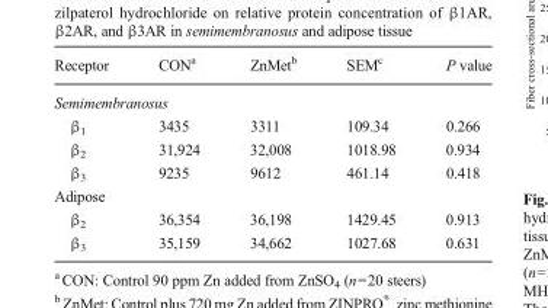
<table><thead><tr><td>Receptor</td><td>CON<sup>a</sup></td><td>ZnMet<sup>b</sup></td><td>SEM<sup>c</sup></td><td>P value</td></tr></thead><tbody><tr><td colspan="5">Semimembranosus</td></tr><tr><td>β<sub>1</sub></td><td>3435</td><td>3311</td><td>109.34</td><td>0.266</td></tr><tr><td>β<sub>2</sub></td><td>31,924</td><td>32,008</td><td>1018.98</td><td>0.934</td></tr><tr><td>β<sub>3</sub></td><td>9235</td><td>9612</td><td>461.14</td><td>0.418</td></tr><tr><td colspan="5">Adipose</td></tr><tr><td>β<sub>2</sub></td><td>36,354</td><td>36,198</td><td>1429.45</td><td>0.913</td></tr><tr><td>β<sub>3</sub></td><td>35,159</td><td>34,662</td><td>1027.68</td><td>0.631</td></tr></tbody></table>